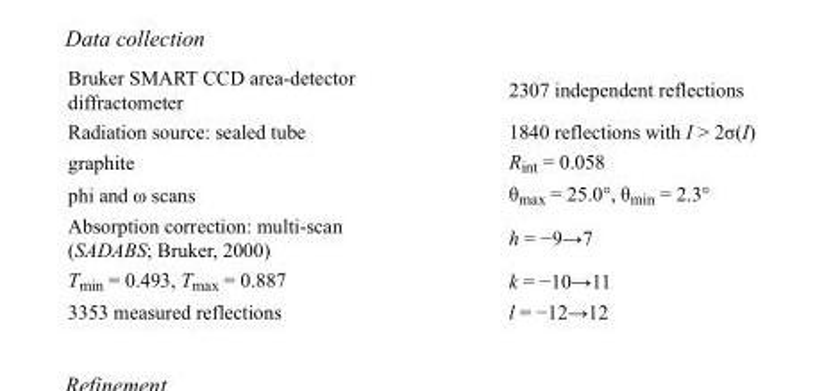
<table><tbody><tr><td>Bruker SMART CCD area-detector diffractometer</td><td>2307 independent reflections</td></tr><tr><td>Radiation source: sealed tube</td><td>1840 reflections with I &gt; 2σ(I)</td></tr><tr><td>graphite</td><td>R<sub>int</sub> = 0.058</td></tr><tr><td>phi and ω scans</td><td>θ<sub>max</sub> = 25.0°, θ<sub>min</sub> = 2.3°</td></tr><tr><td>Absorption correction: multi-scan (SADABS; Bruker, 2000)</td><td>h = −9→7</td></tr><tr><td>T<sub>min</sub> = 0.493, T<sub>max</sub> = 0.887</td><td>k = −10→11</td></tr><tr><td>3353 measured reflections</td><td>l = −12→12</td></tr></tbody></table>